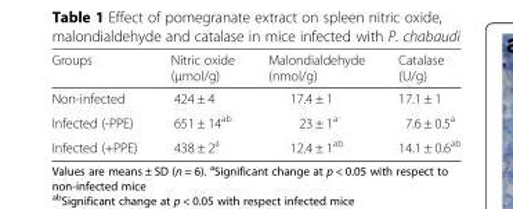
<table><thead><tr><td>Groups</td><td>Nitric oxide (μmol/g)</td><td>Malondialdehyde (nmol/g)</td><td>Catalase (U/g)</td></tr></thead><tbody><tr><td>Non-infected</td><td>424 ± 4</td><td>17.4 ± 1</td><td>17.1 ± 1</td></tr><tr><td>Infected (-PPE)</td><td>651 ± 14<sup>ab</sup></td><td>23 ± 1<sup>a</sup></td><td>7.6 ± 0.5<sup>a</sup></td></tr><tr><td>Infected (+PPE)</td><td>438 ± 2<sup>a</sup></td><td>12.4 ± 1<sup>ab</sup></td><td>14.1 ± 0.6<sup>ab</sup></td></tr></tbody></table>